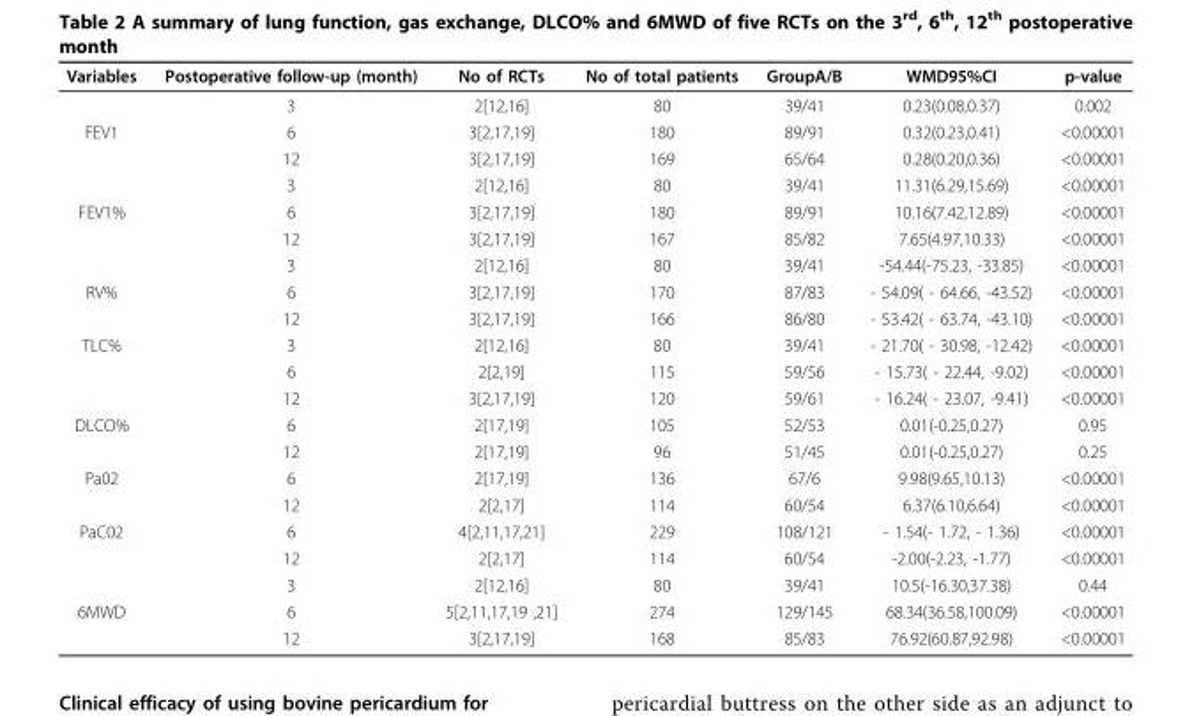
<table><thead><tr><td>Variables</td><td>Postoperative follow-up (month)</td><td>No of RCTs</td><td>No of total patients</td><td>GroupA/B</td><td>WMD95%CI</td><td>p-value</td></tr></thead><tbody><tr><td></td><td>3</td><td>2[12,16]</td><td>80</td><td>39/41</td><td>0.23(0.08,0.37)</td><td>0.002</td></tr><tr><td rowspan="3">FEV1</td><td>6</td><td>3[2,17,19]</td><td>180</td><td>89/91</td><td>0.32(0.23,0.41)</td><td>&lt;0.00001</td></tr><tr><td>12</td><td>3[2,17,19]</td><td>169</td><td>65/64</td><td>0.28(0.20,0.36)</td><td>&lt;0.00001</td></tr><tr><td>3</td><td>2[12,16]</td><td>80</td><td>39/41</td><td>11.31(6.29,15.69)</td><td>&lt;0.00001</td></tr><tr><td rowspan="3">FEV1%</td><td>6</td><td>3[2,17,19]</td><td>180</td><td>89/91</td><td>10.16(7.42,12.89)</td><td>&lt;0.00001</td></tr><tr><td>12</td><td>3[2,17,19]</td><td>167</td><td>85/82</td><td>7.65(4.97,10.33)</td><td>&lt;0.00001</td></tr><tr><td>3</td><td>2[12,16]</td><td>80</td><td>39/41</td><td>-54.44(-75.23, -33.85)</td><td>&lt;0.00001</td></tr><tr><td rowspan="2">RV%</td><td>6</td><td>3[2,17,19]</td><td>170</td><td>87/83</td><td>- 54.09( - 64.66, -43.52)</td><td>&lt;0.00001</td></tr><tr><td>12</td><td>3[2,17,19]</td><td>166</td><td>86/80</td><td>- 53.42( - 63.74, -43.10)</td><td>&lt;0.00001</td></tr><tr><td rowspan="3">TLC%</td><td>3</td><td>2[12,16]</td><td>80</td><td>39/41</td><td>- 21.70( - 30.98, -12.42)</td><td>&lt;0.00001</td></tr><tr><td>6</td><td>2[2,19]</td><td>115</td><td>59/56</td><td>- 15.73( - 22.44, -9.02)</td><td>&lt;0.00001</td></tr><tr><td>12</td><td>3[2,17,19]</td><td>120</td><td>59/61</td><td>- 16.24( - 23.07, -9.41)</td><td>&lt;0.00001</td></tr><tr><td rowspan="2">DLCO%</td><td>6</td><td>2[17,19]</td><td>105</td><td>52/53</td><td>0.01(-0.25,0.27)</td><td>0.95</td></tr><tr><td>12</td><td>2[17,19]</td><td>96</td><td>51/45</td><td>0.01(-0.25,0.27)</td><td>0.25</td></tr><tr><td rowspan="2">Pa02</td><td>6</td><td>2[17,19]</td><td>136</td><td>67/6</td><td>9.98(9.65,10.13)</td><td>&lt;0.00001</td></tr><tr><td>12</td><td>2[2,17]</td><td>114</td><td>60/54</td><td>6.37(6.10,6.64)</td><td>&lt;0.00001</td></tr><tr><td rowspan="3">PaC02</td><td>6</td><td>4[2,11,17,21]</td><td>229</td><td>108/121</td><td>- 1.54(- 1.72, - 1.36)</td><td>&lt;0.00001</td></tr><tr><td>12</td><td>2[2,17]</td><td>114</td><td>60/54</td><td>-2.00(-2.23, -1.77)</td><td>&lt;0.00001</td></tr><tr><td>3</td><td>2[12,16]</td><td>80</td><td>39/41</td><td>10.5(-16.30,37.38)</td><td>0.44</td></tr><tr><td rowspan="2">6MWD</td><td>6</td><td>5[2,11,17,19 ,21]</td><td>274</td><td>129/145</td><td>68.34(36.58,100.09)</td><td>&lt;0.00001</td></tr><tr><td>12</td><td>3[2,17,19]</td><td>168</td><td>85/83</td><td>76.92(60.87,92.98)</td><td>&lt;0.00001</td></tr></tbody></table>